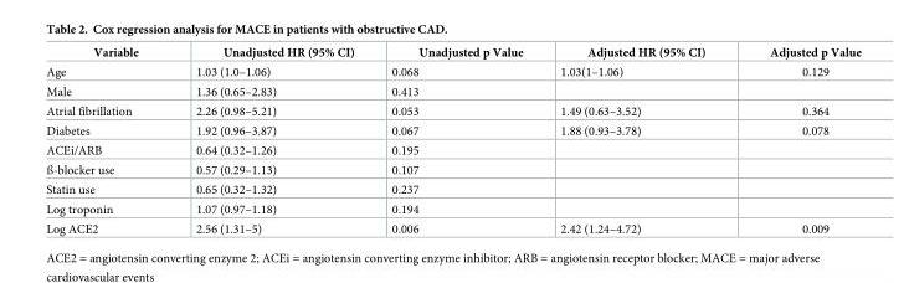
<table><thead><tr><td>Variable</td><td>Unadjusted HR (95% CI)</td><td>Unadjusted p Value</td><td>Adjusted HR (95% CI)</td><td>Adjusted p Value</td></tr></thead><tbody><tr><td>Age</td><td>1.03 (1.0–1.06)</td><td>0.068</td><td>1.03(1–1.06)</td><td>0.129</td></tr><tr><td>Male</td><td>1.36 (0.65–2.83)</td><td>0.413</td><td></td><td></td></tr><tr><td>Atrial fibrillation</td><td>2.26 (0.98–5.21)</td><td>0.053</td><td>1.49 (0.63–3.52)</td><td>0.364</td></tr><tr><td>Diabetes</td><td>1.92 (0.96–3.87)</td><td>0.067</td><td>1.88 (0.93–3.78)</td><td>0.078</td></tr><tr><td>ACEi/ARB</td><td>0.64 (0.32–1.26)</td><td>0.195</td><td></td><td></td></tr><tr><td>ß-blocker use</td><td>0.57 (0.29–1.13)</td><td>0.107</td><td></td><td></td></tr><tr><td>Statin use</td><td>0.65 (0.32–1.32)</td><td>0.237</td><td></td><td></td></tr><tr><td>Log troponin</td><td>1.07 (0.97–1.18)</td><td>0.194</td><td></td><td></td></tr><tr><td>Log ACE2</td><td>2.56 (1.31–5)</td><td>0.006</td><td>2.42 (1.24–4.72)</td><td>0.009</td></tr></tbody></table>